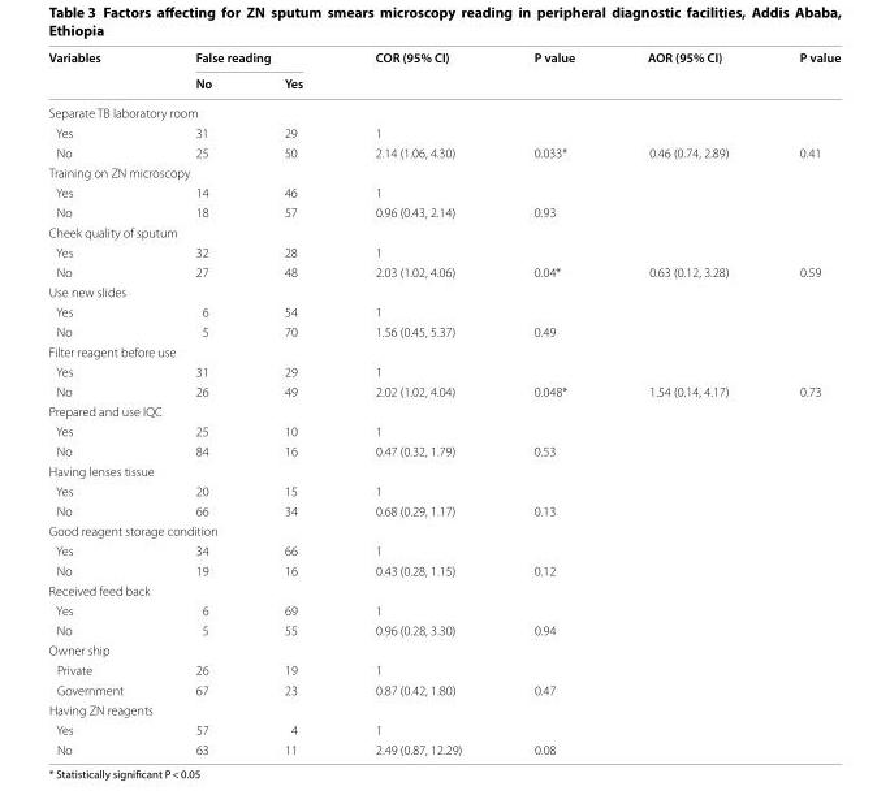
<table><thead><tr><td rowspan="2">Variables</td><td colspan="2">False reading</td><td rowspan="2">COR (95% CI)</td><td rowspan="2">P value</td><td rowspan="2">AOR (95% CI)</td><td rowspan="2">P value</td></tr><tr><td>No</td><td>Yes</td></tr></thead><tbody><tr><td colspan="7">Separate TB laboratory room</td></tr><tr><td>Yes</td><td>31</td><td>29</td><td>1</td><td></td><td></td><td></td></tr><tr><td>No</td><td>25</td><td>50</td><td>2.14 (1.06, 4.30)</td><td>0.033*</td><td>0.46 (0.74, 2.89)</td><td>0.41</td></tr><tr><td colspan="7">Training on ZN microscopy</td></tr><tr><td>Yes</td><td>14</td><td>46</td><td>1</td><td></td><td></td><td></td></tr><tr><td>No</td><td>18</td><td>57</td><td>0.96 (0.43, 2.14)</td><td>0.93</td><td></td><td></td></tr><tr><td colspan="7">Cheek quality of sputum</td></tr><tr><td>Yes</td><td>32</td><td>28</td><td>1</td><td></td><td></td><td></td></tr><tr><td>No</td><td>27</td><td>48</td><td>2.03 (1.02, 4.06)</td><td>0.04*</td><td>0.63 (0.12, 3.28)</td><td>0.59</td></tr><tr><td colspan="7">Use new slides</td></tr><tr><td>Yes</td><td>6</td><td>54</td><td>1</td><td></td><td></td><td></td></tr><tr><td>No</td><td>5</td><td>70</td><td>1.56 (0.45, 5.37)</td><td>0.49</td><td></td><td></td></tr><tr><td colspan="7">Filter reagent before use</td></tr><tr><td>Yes</td><td>31</td><td>29</td><td>1</td><td></td><td></td><td></td></tr><tr><td>No</td><td>26</td><td>49</td><td>2.02 (1.02, 4.04)</td><td>0.048*</td><td>1.54 (0.14, 4.17)</td><td>0.73</td></tr><tr><td colspan="7">Prepared and use IQC</td></tr><tr><td>Yes</td><td>25</td><td>10</td><td>1</td><td></td><td></td><td></td></tr><tr><td>No</td><td>84</td><td>16</td><td>0.47 (0.32, 1.79)</td><td>0.53</td><td></td><td></td></tr><tr><td colspan="7">Having lenses tissue</td></tr><tr><td>Yes</td><td>20</td><td>15</td><td>1</td><td></td><td></td><td></td></tr><tr><td>No</td><td>66</td><td>34</td><td>0.68 (0.29, 1.17)</td><td>0.13</td><td></td><td></td></tr><tr><td colspan="7">Good reagent storage condition</td></tr><tr><td>Yes</td><td>34</td><td>66</td><td>1</td><td></td><td></td><td></td></tr><tr><td>No</td><td>19</td><td>16</td><td>0.43 (0.28, 1.15)</td><td>0.12</td><td></td><td></td></tr><tr><td colspan="7">Received feed back</td></tr><tr><td>Yes</td><td>6</td><td>69</td><td>1</td><td></td><td></td><td></td></tr><tr><td>No</td><td>5</td><td>55</td><td>0.96 (0.28, 3.30)</td><td>0.94</td><td></td><td></td></tr><tr><td colspan="7">Owner ship</td></tr><tr><td>Private</td><td>26</td><td>19</td><td>1</td><td></td><td></td><td></td></tr><tr><td>Government</td><td>67</td><td>23</td><td>0.87 (0.42, 1.80)</td><td>0.47</td><td></td><td></td></tr><tr><td colspan="7">Having ZN reagents</td></tr><tr><td>Yes</td><td>57</td><td>4</td><td>1</td><td></td><td></td><td></td></tr><tr><td>No</td><td>63</td><td>11</td><td>2.49 (0.87, 12.29)</td><td>0.08</td><td></td><td></td></tr></tbody></table>